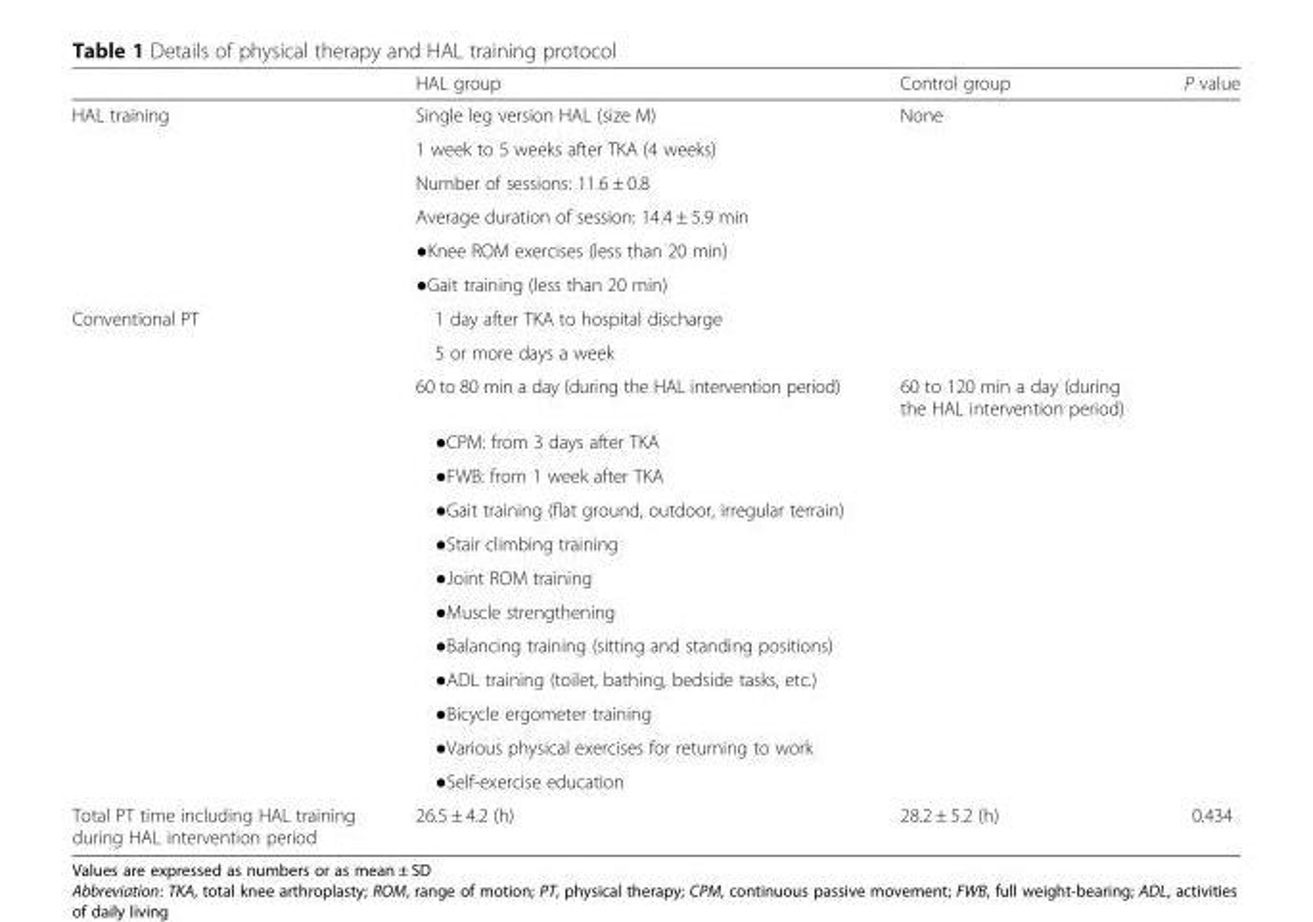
<table><thead><tr><td></td><td>HAL group</td><td>Control group</td><td>P value</td></tr></thead><tbody><tr><td rowspan="6">HAL training</td><td>Single leg version HAL (size M)</td><td rowspan="6">None</td><td></td></tr><tr><td>1 week to 5 weeks after TKA (4 weeks)</td><td></td></tr><tr><td>Number of sessions: 11.6 ± 0.8</td><td></td></tr><tr><td>Average duration of session: 14.4 ± 5.9 min</td><td></td></tr><tr><td>●Knee ROM exercises (less than 20 min)</td><td></td></tr><tr><td>●Gait training (less than 20 min)</td><td></td></tr><tr><td rowspan="14">Conventional PT</td><td colspan="2">1 day after TKA to hospital discharge</td><td></td></tr><tr><td colspan="2">5 or more days a week</td><td></td></tr><tr><td>60 to 80 min a day (during the HAL intervention period)</td><td>60 to 120 min a day (during the HAL intervention period)</td><td></td></tr><tr><td colspan="2">●CPM: from 3 days after TKA</td><td></td></tr><tr><td colspan="2">●FWB: from 1 week after TKA</td><td></td></tr><tr><td colspan="2">●Gait training (flat ground, outdoor, irregular terrain)</td><td></td></tr><tr><td colspan="2">●Stair climbing training</td><td></td></tr><tr><td colspan="2">●Joint ROM training</td><td></td></tr><tr><td colspan="2">●Muscle strengthening</td><td></td></tr><tr><td colspan="2">●Balancing training (sitting and standing positions)</td><td></td></tr><tr><td colspan="2">●ADL training (toilet, bathing, bedside tasks, etc.)</td><td></td></tr><tr><td colspan="2">●Bicycle ergometer training</td><td></td></tr><tr><td colspan="2">●Various physical exercises for returning to work</td><td></td></tr><tr><td colspan="2">●Self-exercise education</td><td></td></tr><tr><td>Total PT time including HAL training during HAL intervention period</td><td>26.5 ± 4.2 (h)</td><td>28.2 ± 5.2 (h)</td><td>0.434</td></tr></tbody></table>